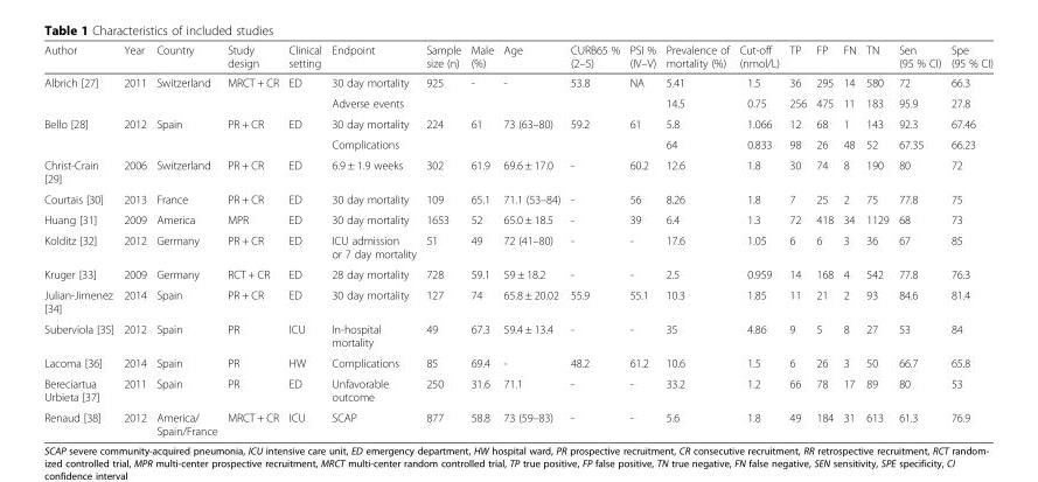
<table><thead><tr><td>Author</td><td>Year</td><td>Country</td><td>Study design</td><td>Clinical setting</td><td>Endpoint</td><td>Sample size (n)</td><td>Male (%)</td><td>Age</td><td>CURB65 % (2–5)</td><td>PSI % (IV–V)</td><td>Prevalence of mortality (%)</td><td>Cut-off (nmol/L)</td><td>TP</td><td>FP</td><td>FN</td><td>TN</td><td>Sen (95 % CI)</td><td>Spe (95 % CI)</td></tr></thead><tbody><tr><td rowspan="2">Albrich [27]</td><td>2011</td><td>Switzerland</td><td>MRCT + CR</td><td>ED</td><td>30 day mortality</td><td>925</td><td>-</td><td>-</td><td>53.8</td><td>NA</td><td>5.41</td><td>1.5</td><td>36</td><td>295</td><td>14</td><td>580</td><td>72</td><td>66.3</td></tr><tr><td></td><td></td><td></td><td></td><td>Adverse events</td><td></td><td></td><td></td><td></td><td></td><td>14.5</td><td>0.75</td><td>256</td><td>475</td><td>11</td><td>183</td><td>95.9</td><td>27.8</td></tr><tr><td rowspan="2">Bello [28]</td><td>2012</td><td>Spain</td><td>PR + CR</td><td>ED</td><td>30 day mortality</td><td>224</td><td>61</td><td>73 (63–80)</td><td>59.2</td><td>61</td><td>5.8</td><td>1.066</td><td>12</td><td>68</td><td>1</td><td>143</td><td>92.3</td><td>67.46</td></tr><tr><td></td><td></td><td></td><td></td><td>Complications</td><td></td><td></td><td></td><td></td><td></td><td>64</td><td>0.833</td><td>98</td><td>26</td><td>48</td><td>52</td><td>67.35</td><td>66.23</td></tr><tr><td>Christ-Crain [29]</td><td>2006</td><td>Switzerland</td><td>PR + CR</td><td>ED</td><td>6.9 ± 1.9 weeks</td><td>302</td><td>61.9</td><td>69.6 ± 17.0</td><td>-</td><td>60.2</td><td>12.6</td><td>1.8</td><td>30</td><td>74</td><td>8</td><td>190</td><td>80</td><td>72</td></tr><tr><td>Courtais [30]</td><td>2013</td><td>France</td><td>PR + CR</td><td>ED</td><td>30 day mortality</td><td>109</td><td>65.1</td><td>71.1 (53–84)</td><td>-</td><td>56</td><td>8.26</td><td>1.8</td><td>7</td><td>25</td><td>2</td><td>75</td><td>77.8</td><td>75</td></tr><tr><td>Huang [31]</td><td>2009</td><td>America</td><td>MPR</td><td>ED</td><td>30 day mortality</td><td>1653</td><td>52</td><td>65.0 ± 18.5</td><td>-</td><td>39</td><td>6.4</td><td>1.3</td><td>72</td><td>418</td><td>34</td><td>1129</td><td>68</td><td>73</td></tr><tr><td>Kolditz [32]</td><td>2012</td><td>Germany</td><td>PR + CR</td><td>ED</td><td>ICU admission or 7 day mortality</td><td>51</td><td>49</td><td>72 (41–80)</td><td>-</td><td>-</td><td>17.6</td><td>1.05</td><td>6</td><td>6</td><td>3</td><td>36</td><td>67</td><td>85</td></tr><tr><td>Kruger [33]</td><td>2009</td><td>Germany</td><td>RCT + CR</td><td>ED</td><td>28 day mortality</td><td>728</td><td>59.1</td><td>59 ± 18.2</td><td>-</td><td>-</td><td>2.5</td><td>0.959</td><td>14</td><td>168</td><td>4</td><td>542</td><td>77.8</td><td>76.3</td></tr><tr><td>Julian-Jimenez [34]</td><td>2014</td><td>Spain</td><td>PR + CR</td><td>ED</td><td>30 day mortality</td><td>127</td><td>74</td><td>65.8 ± 20.02</td><td>55.9</td><td>55.1</td><td>10.3</td><td>1.85</td><td>11</td><td>21</td><td>2</td><td>93</td><td>84.6</td><td>81.4</td></tr><tr><td>Suberviola [35]</td><td>2012</td><td>Spain</td><td>PR</td><td>ICU</td><td>In-hospital mortality</td><td>49</td><td>67.3</td><td>59.4 ± 13.4</td><td>-</td><td>-</td><td>35</td><td>4.86</td><td>9</td><td>5</td><td>8</td><td>27</td><td>53</td><td>84</td></tr><tr><td>Lacoma [36]</td><td>2014</td><td>Spain</td><td>PR</td><td>HW</td><td>Complications</td><td>85</td><td>69.4</td><td>-</td><td>48.2</td><td>61.2</td><td>10.6</td><td>1.5</td><td>6</td><td>26</td><td>3</td><td>50</td><td>66.7</td><td>65.8</td></tr><tr><td>Bereciartua Urbieta [37]</td><td>2011</td><td>Spain</td><td>PR</td><td>ED</td><td>Unfavorable outcome</td><td>250</td><td>31.6</td><td>71.1</td><td>-</td><td>-</td><td>33.2</td><td>1.2</td><td>66</td><td>78</td><td>17</td><td>89</td><td>80</td><td>53</td></tr><tr><td>Renaud [38]</td><td>2012</td><td>America/ Spain/France</td><td>MRCT + CR</td><td>ICU</td><td>SCAP</td><td>877</td><td>58.8</td><td>73 (59–83)</td><td>-</td><td>-</td><td>5.6</td><td>1.8</td><td>49</td><td>184</td><td>31</td><td>613</td><td>61.3</td><td>76.9</td></tr></tbody></table>